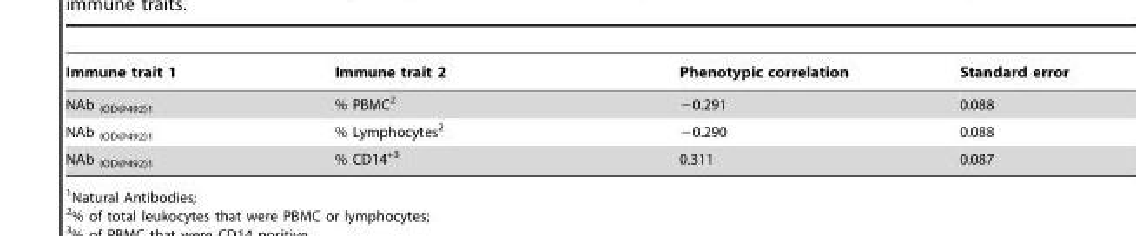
<table><thead><tr><td>Immune trait 1</td><td>Immune trait 2</td><td>Phenotypic correlation</td><td>Standard error</td></tr></thead><tbody><tr><td>NAb <sub>(OD@492)1</sub></td><td>% PBMC<sup>2</sup></td><td>−0.291</td><td>0.088</td></tr><tr><td>NAb <sub>(OD@492)1</sub></td><td>% Lymphocytes<sup>2</sup></td><td>−0.290</td><td>0.088</td></tr><tr><td>NAb <sub>(OD@492)1</sub></td><td>% CD14<sup>+3</sup></td><td>0.311</td><td>0.087</td></tr></tbody></table>